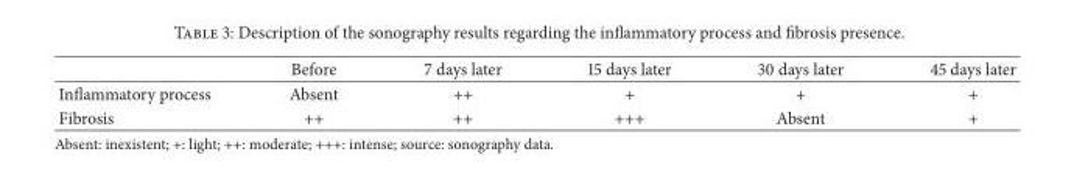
<table><thead><tr><td></td><td>Before</td><td>7 days later</td><td>15 days later</td><td>30 days later</td><td>45 days later</td></tr></thead><tbody><tr><td>Inflammatory process</td><td>Absent</td><td>++</td><td>+</td><td>+</td><td>+</td></tr><tr><td>Fibrosis</td><td>++</td><td>++</td><td>+++</td><td>Absent</td><td>+</td></tr></tbody></table>